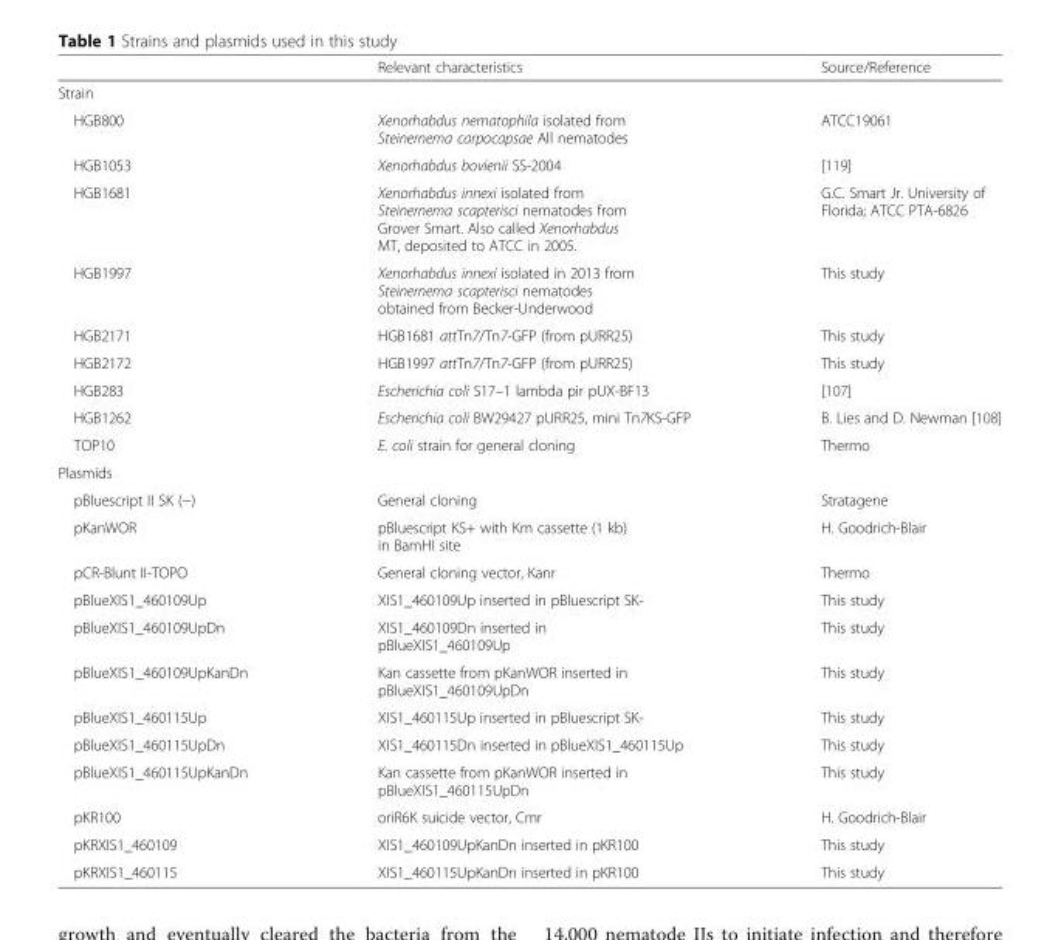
<table><thead><tr><td></td><td>Relevant characteristics</td><td>Source/Reference</td></tr></thead><tbody><tr><td colspan="3">Strain</td></tr><tr><td>HGB800</td><td>Xenorhabdus nematophila isolated from Steinernema carpocapsae All nematodes</td><td>ATCC19061</td></tr><tr><td>HGB1053</td><td>Xenorhabdus bovienii SS-2004</td><td>[119]</td></tr><tr><td>HGB1681</td><td>Xenorhabdus innexi isolated from Steinernema scapterisci nematodes from Grover Smart. Also called Xenorhabdus MT, deposited to ATCC in 2005.</td><td>G.C. Smart Jr. University of Florida; ATCC PTA-6826</td></tr><tr><td>HGB1997</td><td>Xenorhabdus innexi isolated in 2013 from Steinernema scapterisci nematodes obtained from Becker-Underwood</td><td>This study</td></tr><tr><td>HGB2171</td><td>HGB1681 attTn7/Tn7-GFP (from pURR25)</td><td>This study</td></tr><tr><td>HGB2172</td><td>HGB1997 attTn7/Tn7-GFP (from pURR25)</td><td>This study</td></tr><tr><td>HGB283</td><td>Escherichia coli S17–1 lambda pir pUX-BF13</td><td>[107]</td></tr><tr><td>HGB1262</td><td>Escherichia coli BW29427 pURR25, mini Tn7KS-GFP</td><td>B. Lies and D. Newman [108]</td></tr><tr><td>TOP10</td><td>E. coli strain for general cloning</td><td>Thermo</td></tr><tr><td colspan="3">Plasmids</td></tr><tr><td>pBluescript II SK (−)</td><td>General cloning</td><td>Stratagene</td></tr><tr><td>pKanWOR</td><td>pBluescript KS+ with Km cassette (1 kb) in BamHI site</td><td>H. Goodrich-Blair</td></tr><tr><td>pCR-Blunt II-TOPO</td><td>General cloning vector, Kanr</td><td>Thermo</td></tr><tr><td>pBlueXIS1_460109Up</td><td>XIS1_460109Up inserted in pBluescript SK-</td><td>This study</td></tr><tr><td>pBlueXIS1_460109UpDn</td><td>XIS1_460109Dn inserted in pBlueXIS1_460109Up</td><td>This study</td></tr><tr><td>pBlueXIS1_460109UpKanDn</td><td>Kan cassette from pKanWOR inserted in pBlueXIS1_460109UpDn</td><td>This study</td></tr><tr><td>pBlueXIS1_460115Up</td><td>XIS1_460115Up inserted in pBluescript SK-</td><td>This study</td></tr><tr><td>pBlueXIS1_460115UpDn</td><td>XIS1_460115Dn inserted in pBlueXIS1_460115Up</td><td>This study</td></tr><tr><td>pBlueXIS1_460115UpKanDn</td><td>Kan cassette from pKanWOR inserted in pBlueXIS1_460115UpDn</td><td>This study</td></tr><tr><td>pKR100</td><td>oriR6K suicide vector, Cmr</td><td>H. Goodrich-Blair</td></tr><tr><td>pKRXIS1_460109</td><td>XIS1_460109UpKanDn inserted in pKR100</td><td>This study</td></tr><tr><td>pKRXIS1_460115</td><td>XIS1_460115UpKanDn inserted in pKR100</td><td>This study</td></tr></tbody></table>